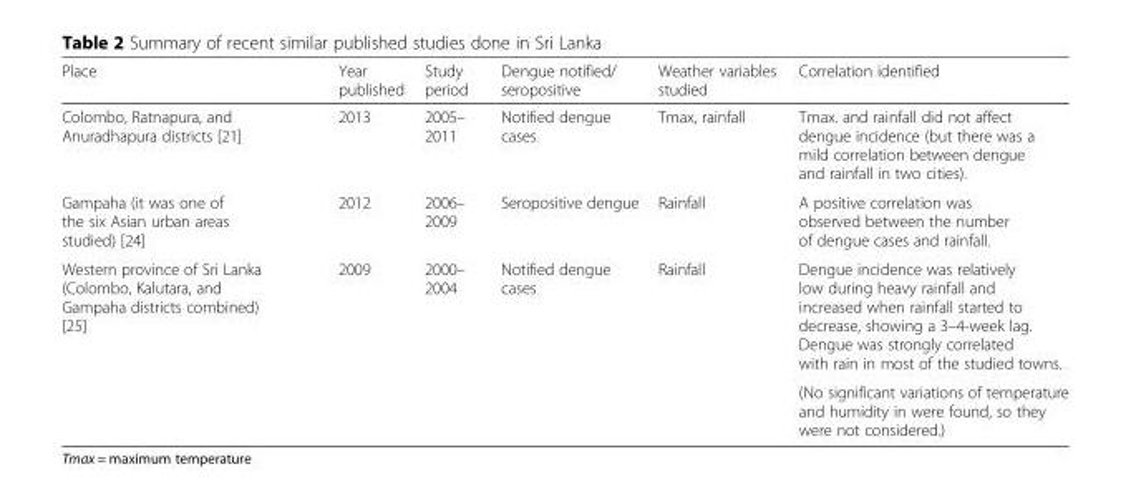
<table><thead><tr><td>Place</td><td>Year published</td><td>Study period</td><td>Dengue notified/ seropositive</td><td>Weather variables studied</td><td>Correlation identified</td></tr></thead><tbody><tr><td>Colombo, Ratnapura, and Anuradhapura districts [21]</td><td>2013</td><td>2005– 2011</td><td>Notified dengue cases</td><td>Tmax, rainfall</td><td>Tmax. and rainfall did not affect dengue incidence (but there was a mild correlation between dengue and rainfall in two cities).</td></tr><tr><td>Gampaha (it was one of the six Asian urban areas studied) [24]</td><td>2012</td><td>2006– 2009</td><td>Seropositive dengue</td><td>Rainfall</td><td>A positive correlation was observed between the number of dengue cases and rainfall.</td></tr><tr><td rowspan="2">Western province of Sri Lanka (Colombo, Kalutara, and Gampaha districts combined) [25]</td><td rowspan="2">2009</td><td rowspan="2">2000– 2004</td><td rowspan="2">Notified dengue cases</td><td rowspan="2">Rainfall</td><td>Dengue incidence was relatively low during heavy rainfall and increased when rainfall started to decrease, showing a 3–4-week lag. Dengue was strongly correlated with rain in most of the studied towns.</td></tr><tr><td>(No significant variations of temperature and humidity in were found, so they were not considered.)</td></tr></tbody></table>